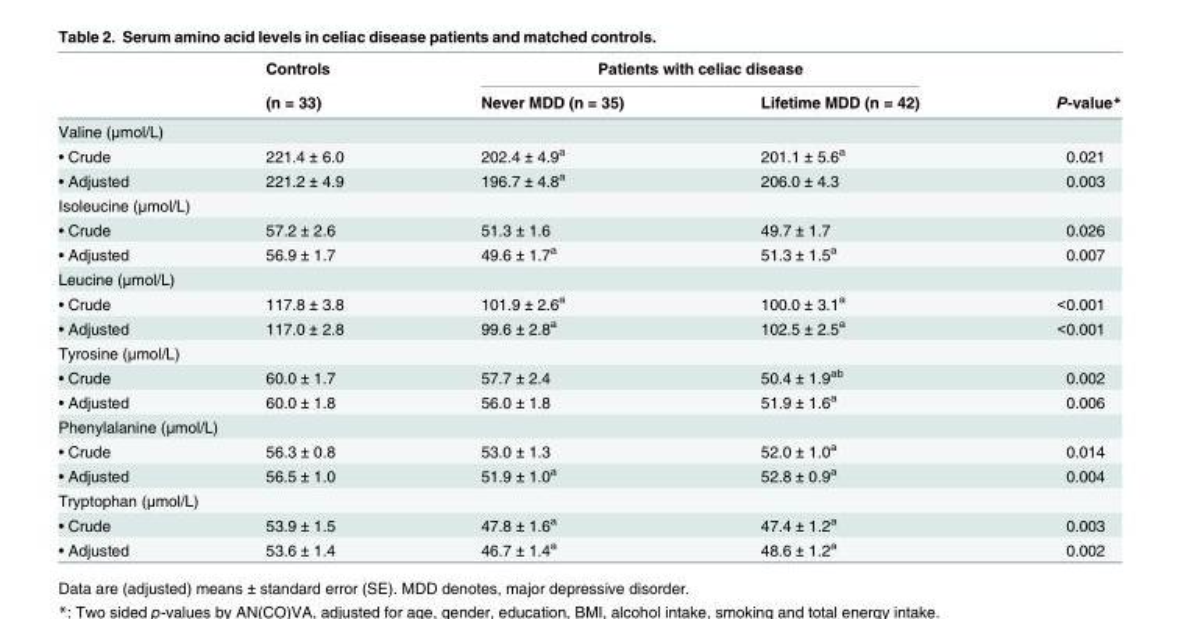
<table><thead><tr><td rowspan="2"></td><td rowspan="2">Controls (n = 33)</td><td colspan="2">Patients with celiac disease</td><td rowspan="2">P-value*</td></tr><tr><td>Never MDD (n = 35)</td><td>Lifetime MDD (n = 42)</td></tr></thead><tbody><tr><td colspan="5">Valine (μmol/L)</td></tr><tr><td>• Crude</td><td>221.4 ± 6.0</td><td>202.4 ± 4.9<sup>a</sup></td><td>201.1 ± 5.6<sup>a</sup></td><td>0.021</td></tr><tr><td>• Adjusted</td><td>221.2 ± 4.9</td><td>196.7 ± 4.8<sup>a</sup></td><td>206.0 ± 4.3</td><td>0.003</td></tr><tr><td colspan="5">Isoleucine (μmol/L)</td></tr><tr><td>• Crude</td><td>57.2 ± 2.6</td><td>51.3 ± 1.6</td><td>49.7 ± 1.7</td><td>0.026</td></tr><tr><td>• Adjusted</td><td>56.9 ± 1.7</td><td>49.6 ± 1.7<sup>a</sup></td><td>51.3 ± 1.5<sup>a</sup></td><td>0.007</td></tr><tr><td colspan="5">Leucine (μmol/L)</td></tr><tr><td>• Crude</td><td>117.8 ± 3.8</td><td>101.9 ± 2.6<sup>a</sup></td><td>100.0 ± 3.1<sup>a</sup></td><td>&lt;0.001</td></tr><tr><td>• Adjusted</td><td>117.0 ± 2.8</td><td>99.6 ± 2.8<sup>a</sup></td><td>102.5 ± 2.5<sup>a</sup></td><td>&lt;0.001</td></tr><tr><td colspan="5">Tyrosine (μmol/L)</td></tr><tr><td>• Crude</td><td>60.0 ± 1.7</td><td>57.7 ± 2.4</td><td>50.4 ± 1.9<sup>ab</sup></td><td>0.002</td></tr><tr><td>• Adjusted</td><td>60.0 ± 1.8</td><td>56.0 ± 1.8</td><td>51.9 ± 1.6<sup>a</sup></td><td>0.006</td></tr><tr><td colspan="5">Phenylalanine (μmol/L)</td></tr><tr><td>• Crude</td><td>56.3 ± 0.8</td><td>53.0 ± 1.3</td><td>52.0 ± 1.0<sup>a</sup></td><td>0.014</td></tr><tr><td>• Adjusted</td><td>56.5 ± 1.0</td><td>51.9 ± 1.0<sup>a</sup></td><td>52.8 ± 0.9<sup>a</sup></td><td>0.004</td></tr><tr><td colspan="5">Tryptophan (μmol/L)</td></tr><tr><td>• Crude</td><td>53.9 ± 1.5</td><td>47.8 ± 1.6<sup>a</sup></td><td>47.4 ± 1.2<sup>a</sup></td><td>0.003</td></tr><tr><td>• Adjusted</td><td>53.6 ± 1.4</td><td>46.7 ± 1.4<sup>a</sup></td><td>48.6 ± 1.2<sup>a</sup></td><td>0.002</td></tr></tbody></table>